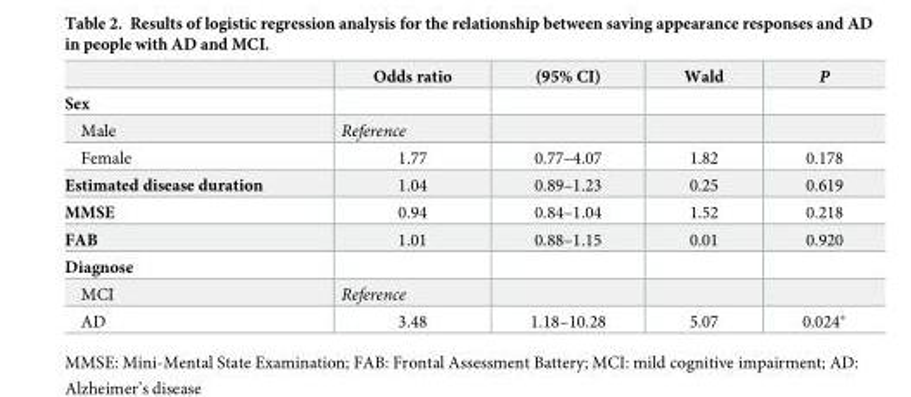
<table><thead><tr><td></td><td>Odds ratio</td><td>(95% CI)</td><td>Wald</td><td>P</td></tr></thead><tbody><tr><td colspan="5">Sex</td></tr><tr><td>Male</td><td>Reference</td><td></td><td></td><td></td></tr><tr><td>Female</td><td>1.77</td><td>0.77–4.07</td><td>1.82</td><td>0.178</td></tr><tr><td>Estimated disease duration</td><td>1.04</td><td>0.89–1.23</td><td>0.25</td><td>0.619</td></tr><tr><td>MMSE</td><td>0.94</td><td>0.84–1.04</td><td>1.52</td><td>0.218</td></tr><tr><td>FAB</td><td>1.01</td><td>0.88–1.15</td><td>0.01</td><td>0.920</td></tr><tr><td colspan="5">Diagnose</td></tr><tr><td>MCI</td><td>Reference</td><td></td><td></td><td></td></tr><tr><td>AD</td><td>3.48</td><td>1.18–10.28</td><td>5.07</td><td>0.024*</td></tr></tbody></table>